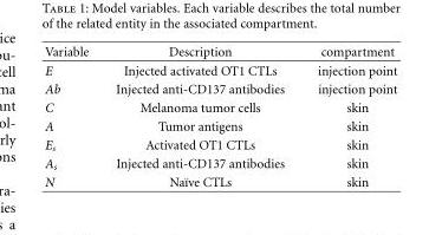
<table><thead><tr><td>Variable</td><td>Description</td><td>compartment</td></tr></thead><tbody><tr><td>E</td><td>Injected activated OT1 CTLs</td><td>injection point</td></tr><tr><td>Ab</td><td>Injected anti-CD137 antibodies</td><td>injection point</td></tr><tr><td>C</td><td>Melanoma tumor cells</td><td>skin</td></tr><tr><td>A</td><td>Tumor antigens</td><td>skin</td></tr><tr><td>E<sub>s</sub></td><td>Activated OT1 CTLs</td><td>skin</td></tr><tr><td>A<sub>s</sub></td><td>Injected anti-CD137 antibodies</td><td>skin</td></tr><tr><td>N</td><td>Na¨ıve CTLs</td><td>skin</td></tr></tbody></table>